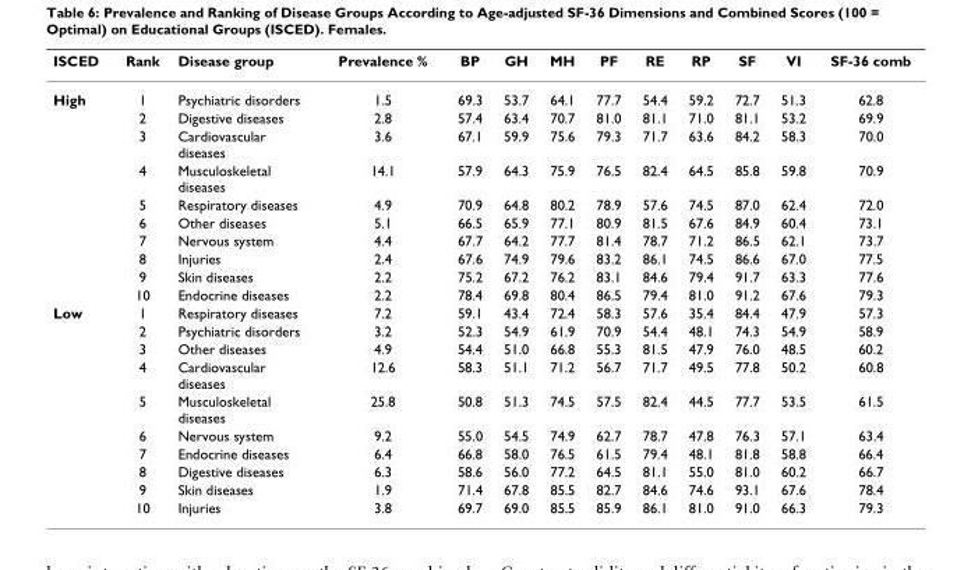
<table><thead><tr><td>ISCED</td><td>Rank</td><td>Disease group</td><td>Prevalence %</td><td>BP</td><td>GH</td><td>MH</td><td>PF</td><td>RE</td><td>RP</td><td>SF</td><td>VI</td><td>SF-36 comb</td></tr></thead><tbody><tr><td rowspan="10">High</td><td>1</td><td>Psychiatric disorders</td><td>1.5</td><td>69.3</td><td>53.7</td><td>64.1</td><td>77.7</td><td>54.4</td><td>59.2</td><td>72.7</td><td>51.3</td><td>62.8</td></tr><tr><td>2</td><td>Digestive diseases</td><td>2.8</td><td>57.4</td><td>63.4</td><td>70.7</td><td>81.0</td><td>81.1</td><td>71.0</td><td>81.1</td><td>53.2</td><td>69.9</td></tr><tr><td>3</td><td>Cardiovascular diseases</td><td>3.6</td><td>67.1</td><td>59.9</td><td>75.6</td><td>79.3</td><td>71.7</td><td>63.6</td><td>84.2</td><td>58.3</td><td>70.0</td></tr><tr><td>4</td><td>Musculoskeletal diseases</td><td>14.1</td><td>57.9</td><td>64.3</td><td>75.9</td><td>76.5</td><td>82.4</td><td>64.5</td><td>85.8</td><td>59.8</td><td>70.9</td></tr><tr><td>5</td><td>Respiratory diseases</td><td>4.9</td><td>70.9</td><td>64.8</td><td>80.2</td><td>78.9</td><td>57.6</td><td>74.5</td><td>87.0</td><td>62.4</td><td>72.0</td></tr><tr><td>6</td><td>Other diseases</td><td>5.1</td><td>66.5</td><td>65.9</td><td>77.1</td><td>80.9</td><td>81.5</td><td>67.6</td><td>84.9</td><td>60.4</td><td>73.1</td></tr><tr><td>7</td><td>Nervous system</td><td>4.4</td><td>67.7</td><td>64.2</td><td>77.7</td><td>81.4</td><td>78.7</td><td>71.2</td><td>86.5</td><td>62.1</td><td>73.7</td></tr><tr><td>8</td><td>Injuries</td><td>2.4</td><td>67.6</td><td>74.9</td><td>79.6</td><td>83.2</td><td>86.1</td><td>74.5</td><td>86.6</td><td>67.0</td><td>77.5</td></tr><tr><td>9</td><td>Skin diseases</td><td>2.2</td><td>75.2</td><td>67.2</td><td>76.2</td><td>83.1</td><td>84.6</td><td>79.4</td><td>91.7</td><td>63.3</td><td>77.6</td></tr><tr><td>10</td><td>Endocrine diseases</td><td>2.2</td><td>78.4</td><td>69.8</td><td>80.4</td><td>86.5</td><td>79.4</td><td>81.0</td><td>91.2</td><td>67.6</td><td>79.3</td></tr><tr><td rowspan="10">Low</td><td>1</td><td>Respiratory diseases</td><td>7.2</td><td>59.1</td><td>43.4</td><td>72.4</td><td>58.3</td><td>57.6</td><td>35.4</td><td>84.4</td><td>47.9</td><td>57.3</td></tr><tr><td>2</td><td>Psychiatric disorders</td><td>3.2</td><td>52.3</td><td>54.9</td><td>61.9</td><td>70.9</td><td>54.4</td><td>48.1</td><td>74.3</td><td>54.9</td><td>58.9</td></tr><tr><td>3</td><td>Other diseases</td><td>4.9</td><td>54.4</td><td>51.0</td><td>66.8</td><td>55.3</td><td>81.5</td><td>47.9</td><td>76.0</td><td>48.5</td><td>60.2</td></tr><tr><td>4</td><td>Cardiovascular diseases</td><td>12.6</td><td>58.3</td><td>51.1</td><td>71.2</td><td>56.7</td><td>71.7</td><td>49.5</td><td>77.8</td><td>50.2</td><td>60.8</td></tr><tr><td>5</td><td>Musculoskeletal diseases</td><td>25.8</td><td>50.8</td><td>51.3</td><td>74.5</td><td>57.5</td><td>82.4</td><td>44.5</td><td>77.7</td><td>53.5</td><td>61.5</td></tr><tr><td>6</td><td>Nervous system</td><td>9.2</td><td>55.0</td><td>54.5</td><td>74.9</td><td>62.7</td><td>78.7</td><td>47.8</td><td>76.3</td><td>57.1</td><td>63.4</td></tr><tr><td>7</td><td>Endocrine diseases</td><td>6.4</td><td>66.8</td><td>58.0</td><td>76.5</td><td>61.5</td><td>79.4</td><td>48.1</td><td>81.8</td><td>58.8</td><td>66.4</td></tr><tr><td>8</td><td>Digestive diseases</td><td>6.3</td><td>58.6</td><td>56.0</td><td>77.2</td><td>64.5</td><td>81.1</td><td>55.0</td><td>81.0</td><td>60.2</td><td>66.7</td></tr><tr><td>9</td><td>Skin diseases</td><td>1.9</td><td>71.4</td><td>67.8</td><td>85.5</td><td>82.7</td><td>84.6</td><td>74.6</td><td>93.1</td><td>67.6</td><td>78.4</td></tr><tr><td>10</td><td>Injuries</td><td>3.8</td><td>69.7</td><td>69.0</td><td>85.5</td><td>85.9</td><td>86.1</td><td>81.0</td><td>91.0</td><td>66.3</td><td>79.3</td></tr></tbody></table>